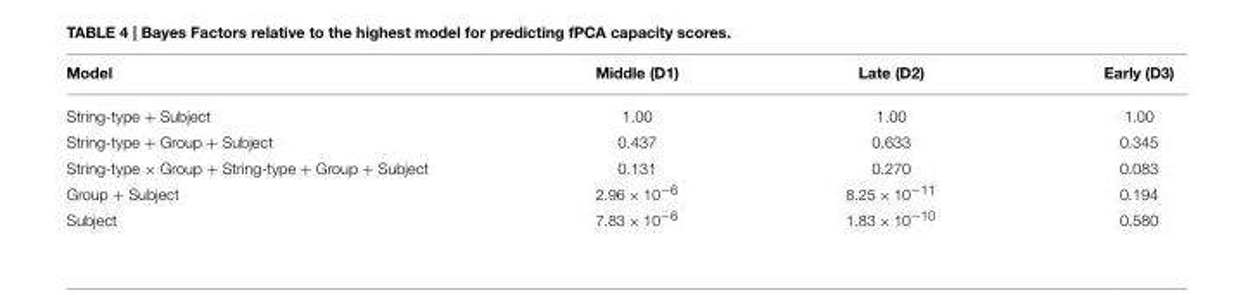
<table><thead><tr><td>Model</td><td>Middle (D1)</td><td>Late (D2)</td><td>Early (D3)</td></tr></thead><tbody><tr><td>String-type + Subject</td><td>1.00</td><td>1.00</td><td>1.00</td></tr><tr><td>String-type + Group + Subject</td><td>0.437</td><td>0.633</td><td>0.345</td></tr><tr><td>String-type × Group + String-type + Group + Subject</td><td>0.131</td><td>0.270</td><td>0.083</td></tr><tr><td>Group + Subject</td><td>2.96 × 10<sup>−6</sup></td><td>8.25 × 10<sup>−11</sup></td><td>0.194</td></tr><tr><td>Subject</td><td>7.83 × 10<sup>−6</sup></td><td>1.83 × 10<sup>−10</sup></td><td>0.580</td></tr></tbody></table>